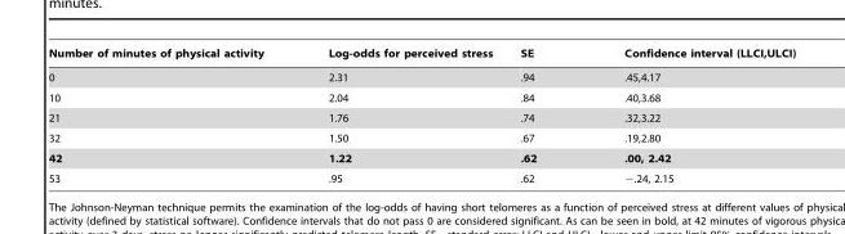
<table><thead><tr><td>Number of minutes of physical activity</td><td>Log-odds for perceived stress</td><td>SE</td><td>Confidence interval (LLCI,ULCI)</td></tr></thead><tbody><tr><td>0</td><td>2.31</td><td>.94</td><td>.45,4.17</td></tr><tr><td>10</td><td>2.04</td><td>.84</td><td>.40,3.68</td></tr><tr><td>21</td><td>1.76</td><td>.74</td><td>.32,3.22</td></tr><tr><td>32</td><td>1.50</td><td>.67</td><td>.19,2.80</td></tr><tr><td>42</td><td>1.22</td><td>.62</td><td>.00, 2.42</td></tr><tr><td>53</td><td>.95</td><td>.62</td><td>−.24, 2.15</td></tr></tbody></table>